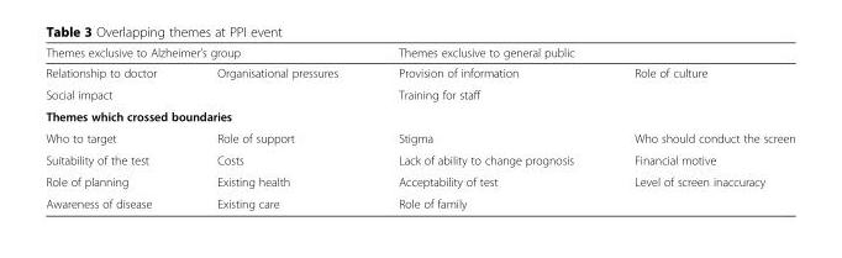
<table><thead><tr><td colspan="2">Themes exclusive to Alzheimer’s group</td><td colspan="2">Themes exclusive to general public</td></tr><tr><td>Relationship to doctor</td><td>Organisational pressures</td><td>Provision of information</td><td>Role of culture</td></tr></thead><tbody><tr><td>Social impact</td><td></td><td>Training for staff</td><td></td></tr><tr><td colspan="4">Themes which crossed boundaries</td></tr><tr><td>Who to target</td><td>Role of support</td><td>Stigma</td><td>Who should conduct the screen</td></tr><tr><td>Suitability of the test</td><td>Costs</td><td>Lack of ability to change prognosis</td><td>Financial motive</td></tr><tr><td>Role of planning</td><td>Existing health</td><td>Acceptability of test</td><td>Level of screen inaccuracy</td></tr><tr><td>Awareness of disease</td><td>Existing care</td><td>Role of family</td><td></td></tr></tbody></table>